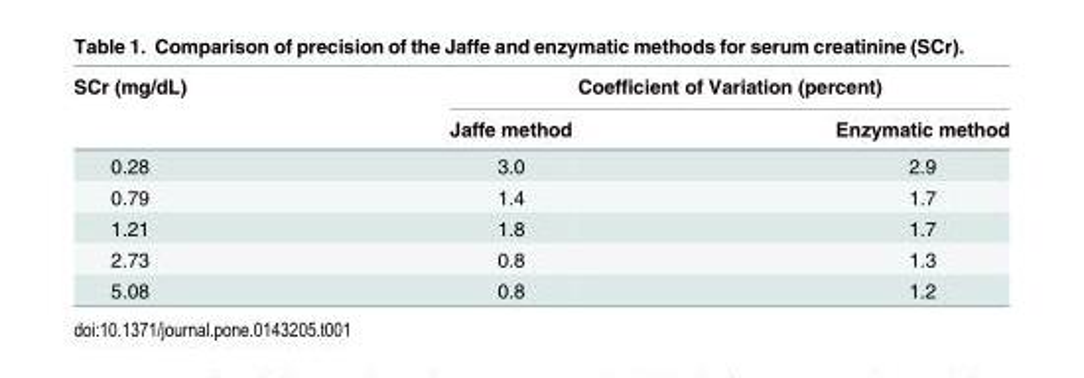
<table><thead><tr><td rowspan="2">SCr (mg/dL)</td><td colspan="2">Coefficient of Variation (percent)</td></tr><tr><td>Jaffe method</td><td>Enzymatic method</td></tr></thead><tbody><tr><td>0.28</td><td>3.0</td><td>2.9</td></tr><tr><td>0.79</td><td>1.4</td><td>1.7</td></tr><tr><td>1.21</td><td>1.8</td><td>1.7</td></tr><tr><td>2.73</td><td>0.8</td><td>1.3</td></tr><tr><td>5.08</td><td>0.8</td><td>1.2</td></tr></tbody></table>